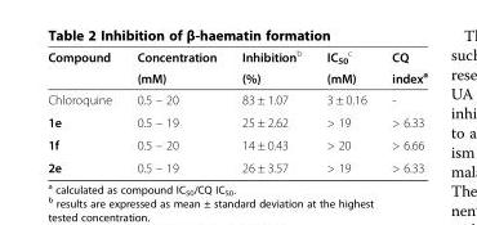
<table><thead><tr><td rowspan="2">Compound</td><td rowspan="2">Concentration (mM)</td><td rowspan="2">Inhibition<sup>b</sup> (%)</td><td rowspan="2">IC<sub>50</sub> <sup>c</sup> (mM)</td><td rowspan="2">CQ index<sup>a</sup></td></tr><tr></tr></thead><tbody><tr><td>Chloroquine</td><td>0.5 – 20</td><td>83 ± 1.07</td><td>3 ± 0.16</td><td>-</td></tr><tr><td>1e</td><td>0.5 – 19</td><td>25 ± 2.62</td><td>&gt; 19</td><td>&gt; 6.33</td></tr><tr><td>1f</td><td>0.5 – 20</td><td>14 ± 0.43</td><td>&gt; 20</td><td>&gt; 6.66</td></tr><tr><td>2e</td><td>0.5 – 19</td><td>26 ± 3.57</td><td>&gt; 19</td><td>&gt; 6.33</td></tr></tbody></table>